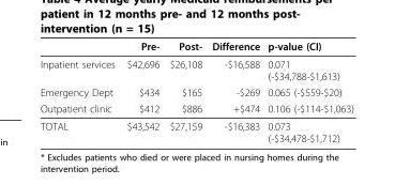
<table><thead><tr><td></td><td>Pre-</td><td>Post-</td><td>Difference</td><td>p-value (CI)</td></tr></thead><tbody><tr><td>Inpatient services</td><td>$42,696</td><td>$26,108</td><td>-$16,588</td><td>0.071 (-$34,788-$1,613)</td></tr><tr><td>Emergency Dept</td><td>$434</td><td>$165</td><td>-$269</td><td>0.065 (-$559-$20)</td></tr><tr><td>Outpatient clinic</td><td>$412</td><td>$886</td><td>+$474</td><td>0.106 (-$114-$1,063)</td></tr><tr><td>TOTAL</td><td>$43,542</td><td>$27,159</td><td>-$16,383</td><td>0.073 (-$34,478-$1,712)</td></tr></tbody></table>